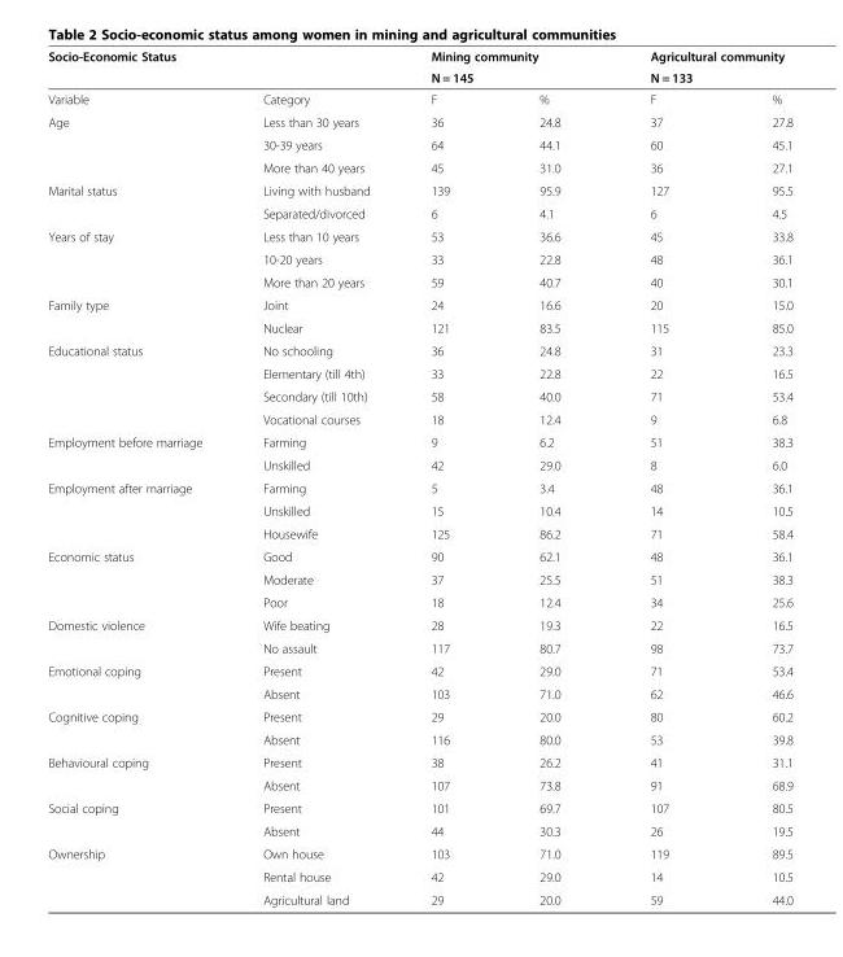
<table><thead><tr><td rowspan="2" colspan="2">Socio-Economic Status</td><td rowspan="2" colspan="2">Mining community N = 145</td><td rowspan="2" colspan="2">Agricultural community N = 133</td></tr><tr></tr><tr><td>Variable</td><td>Category</td><td>F</td><td>%</td><td>F</td><td>%</td></tr></thead><tbody><tr><td rowspan="3">Age</td><td>Less than 30 years</td><td>36</td><td>24.8</td><td>37</td><td>27.8</td></tr><tr><td>30-39 years</td><td>64</td><td>44.1</td><td>60</td><td>45.1</td></tr><tr><td>More than 40 years</td><td>45</td><td>31.0</td><td>36</td><td>27.1</td></tr><tr><td rowspan="2">Marital status</td><td>Living with husband</td><td>139</td><td>95.9</td><td>127</td><td>95.5</td></tr><tr><td>Separated/divorced</td><td>6</td><td>4.1</td><td>6</td><td>4.5</td></tr><tr><td rowspan="3">Years of stay</td><td>Less than 10 years</td><td>53</td><td>36.6</td><td>45</td><td>33.8</td></tr><tr><td>10-20 years</td><td>33</td><td>22.8</td><td>48</td><td>36.1</td></tr><tr><td>More than 20 years</td><td>59</td><td>40.7</td><td>40</td><td>30.1</td></tr><tr><td rowspan="2">Family type</td><td>Joint</td><td>24</td><td>16.6</td><td>20</td><td>15.0</td></tr><tr><td>Nuclear</td><td>121</td><td>83.5</td><td>115</td><td>85.0</td></tr><tr><td rowspan="4">Educational status</td><td>No schooling</td><td>36</td><td>24.8</td><td>31</td><td>23.3</td></tr><tr><td>Elementary (till 4th)</td><td>33</td><td>22.8</td><td>22</td><td>16.5</td></tr><tr><td>Secondary (till 10th)</td><td>58</td><td>40.0</td><td>71</td><td>53.4</td></tr><tr><td>Vocational courses</td><td>18</td><td>12.4</td><td>9</td><td>6.8</td></tr><tr><td rowspan="2">Employment before marriage</td><td>Farming</td><td>9</td><td>6.2</td><td>51</td><td>38.3</td></tr><tr><td>Unskilled</td><td>42</td><td>29.0</td><td>8</td><td>6.0</td></tr><tr><td rowspan="3">Employment after marriage</td><td>Farming</td><td>5</td><td>3.4</td><td>48</td><td>36.1</td></tr><tr><td>Unskilled</td><td>15</td><td>10.4</td><td>14</td><td>10.5</td></tr><tr><td>Housewife</td><td>125</td><td>86.2</td><td>71</td><td>58.4</td></tr><tr><td rowspan="3">Economic status</td><td>Good</td><td>90</td><td>62.1</td><td>48</td><td>36.1</td></tr><tr><td>Moderate</td><td>37</td><td>25.5</td><td>51</td><td>38.3</td></tr><tr><td>Poor</td><td>18</td><td>12.4</td><td>34</td><td>25.6</td></tr><tr><td rowspan="2">Domestic violence</td><td>Wife beating</td><td>28</td><td>19.3</td><td>22</td><td>16.5</td></tr><tr><td>No assault</td><td>117</td><td>80.7</td><td>98</td><td>73.7</td></tr><tr><td rowspan="2">Emotional coping</td><td>Present</td><td>42</td><td>29.0</td><td>71</td><td>53.4</td></tr><tr><td>Absent</td><td>103</td><td>71.0</td><td>62</td><td>46.6</td></tr><tr><td rowspan="2">Cognitive coping</td><td>Present</td><td>29</td><td>20.0</td><td>80</td><td>60.2</td></tr><tr><td>Absent</td><td>116</td><td>80.0</td><td>53</td><td>39.8</td></tr><tr><td rowspan="2">Behavioural coping</td><td>Present</td><td>38</td><td>26.2</td><td>41</td><td>31.1</td></tr><tr><td>Absent</td><td>107</td><td>73.8</td><td>91</td><td>68.9</td></tr><tr><td rowspan="2">Social coping</td><td>Present</td><td>101</td><td>69.7</td><td>107</td><td>80.5</td></tr><tr><td>Absent</td><td>44</td><td>30.3</td><td>26</td><td>19.5</td></tr><tr><td rowspan="3">Ownership</td><td>Own house</td><td>103</td><td>71.0</td><td>119</td><td>89.5</td></tr><tr><td>Rental house</td><td>42</td><td>29.0</td><td>14</td><td>10.5</td></tr><tr><td>Agricultural land</td><td>29</td><td>20.0</td><td>59</td><td>44.0</td></tr></tbody></table>